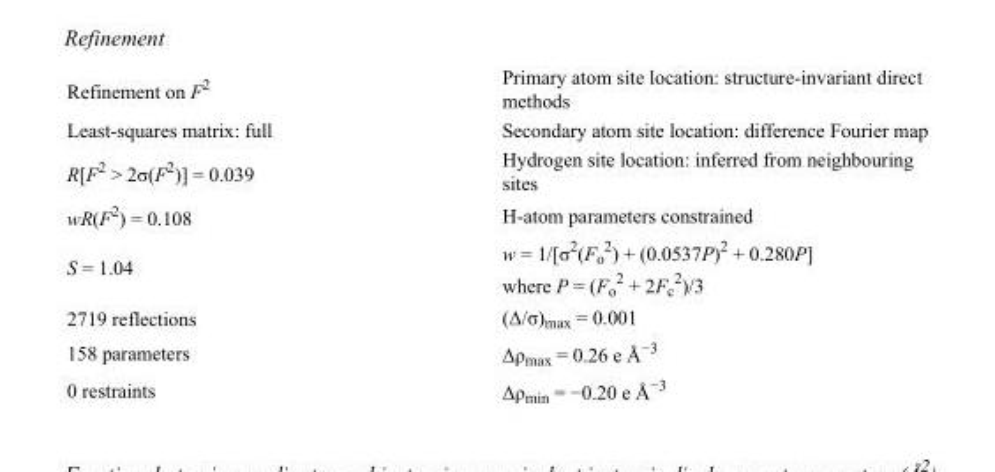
<table><tbody><tr><td>Refinement on F<sup>2</sup></td><td>Primary atom site location: structure-invariant direct methods</td></tr><tr><td>Least-squares matrix: full</td><td>Secondary atom site location: difference Fourier map</td></tr><tr><td>R[F<sup>2</sup> &gt; 2σ(F<sup>2</sup>)] = 0.039</td><td>Hydrogen site location: inferred from neighbouring sites</td></tr><tr><td>wR(F<sup>2</sup>) = 0.108</td><td>H-atom parameters constrained</td></tr><tr><td>S = 1.04</td><td>w = 1/[σ<sup>2</sup>(F<sub>o</sub> <sup>2</sup>) + (0.0537P)<sup>2</sup> + 0.280P] where P = (F<sub>o</sub> <sup>2</sup> + 2F<sub>c</sub> <sup>2</sup>)/3</td></tr><tr><td>2719 reflections</td><td>(Δ/σ)<sub>max</sub> = 0.001</td></tr><tr><td>158 parameters</td><td>Δρ<sub>max</sub> = 0.26 e Å<sup>−3</sup></td></tr><tr><td>0 restraints</td><td>Δρ<sub>min</sub> = −0.20 e Å<sup>−3</sup></td></tr></tbody></table>